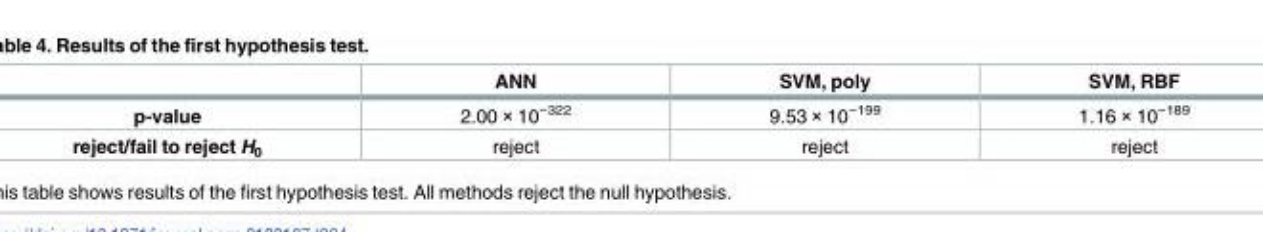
<table><thead><tr><td></td><td>ANN</td><td>SVM, poly</td><td>SVM, RBF</td></tr></thead><tbody><tr><td>p-value</td><td>2.00 × 10<sup>−322</sup></td><td>9.53 × 10<sup>−199</sup></td><td>1.16 × 10<sup>−189</sup></td></tr><tr><td>reject/fail to reject H<sub>0</sub></td><td>reject</td><td>reject</td><td>reject</td></tr></tbody></table>